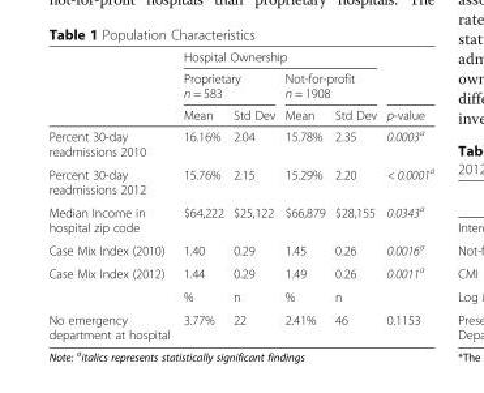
<table><thead><tr><td rowspan="3"></td><td colspan="4">Hospital Ownership</td><td rowspan="3">p-value</td></tr><tr><td colspan="2">Proprietary n = 583</td><td colspan="2">Not-for-profit n = 1908</td></tr><tr><td>Mean</td><td>Std Dev</td><td>Mean</td><td>Std Dev</td></tr></thead><tbody><tr><td>Percent 30-day readmissions 2010</td><td>16.16%</td><td>2.04</td><td>15.78%</td><td>2.35</td><td>0.0003<sup>a</sup></td></tr><tr><td>Percent 30-day readmissions 2012</td><td>15.76%</td><td>2.15</td><td>15.29%</td><td>2.20</td><td>&lt; 0.0001<sup>a</sup></td></tr><tr><td>Median Income in hospital zip code</td><td>$64,222</td><td>$25,122</td><td>$66,879</td><td>$28,155</td><td>0.0343<sup>a</sup></td></tr><tr><td>Case Mix Index (2010)</td><td>1.40</td><td>0.29</td><td>1.45</td><td>0.26</td><td>0.0016<sup>a</sup></td></tr><tr><td rowspan="2">Case Mix Index (2012)</td><td>1.44</td><td>0.29</td><td>1.49</td><td>0.26</td><td>0.0011<sup>a</sup></td></tr><tr><td>%</td><td>n</td><td>%</td><td>n</td><td></td></tr><tr><td>No emergency department at hospital</td><td>3.77%</td><td>22</td><td>2.41%</td><td>46</td><td>0.1153</td></tr></tbody></table>